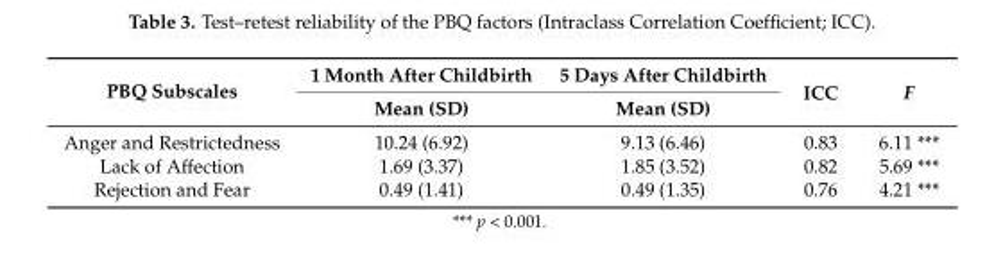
<table><thead><tr><td rowspan="2">PBQ Subscales</td><td rowspan="2">1 Month After Childbirth Mean (SD)</td><td rowspan="2">5 Days After Childbirth Mean (SD)</td><td rowspan="2">ICC</td><td rowspan="2">F</td></tr><tr></tr></thead><tbody><tr><td>Anger and Restrictedness</td><td>10.24 (6.92)</td><td>9.13 (6.46)</td><td>0.83</td><td>6.11 ***</td></tr><tr><td>Lack of Affection</td><td>1.69 (3.37)</td><td>1.85 (3.52)</td><td>0.82</td><td>5.69 ***</td></tr><tr><td>Rejection and Fear</td><td>0.49 (1.41)</td><td>0.49 (1.35)</td><td>0.76</td><td>4.21 ***</td></tr></tbody></table>